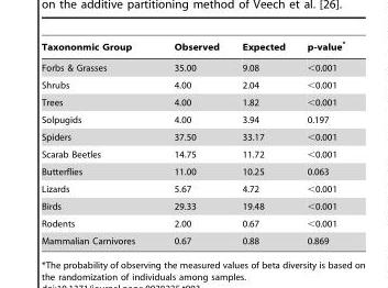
<table><thead><tr><td>Taxononmic Group</td><td>Observed</td><td>Expected</td><td>p-value*</td></tr></thead><tbody><tr><td>Forbs &amp; Grasses</td><td>35.00</td><td>9.08</td><td>&lt;0.001</td></tr><tr><td>Shrubs</td><td>4.00</td><td>2.04</td><td>&lt;0.001</td></tr><tr><td>Trees</td><td>4.00</td><td>1.82</td><td>&lt;0.001</td></tr><tr><td>Solpugids</td><td>4.00</td><td>3.94</td><td>0.197</td></tr><tr><td>Spiders</td><td>37.50</td><td>33.17</td><td>&lt;0.001</td></tr><tr><td>Scarab Beetles</td><td>14.75</td><td>11.72</td><td>&lt;0.001</td></tr><tr><td>Butterflies</td><td>11.00</td><td>10.25</td><td>0.063</td></tr><tr><td>Lizards</td><td>5.67</td><td>4.72</td><td>&lt;0.001</td></tr><tr><td>Birds</td><td>29.33</td><td>19.48</td><td>&lt;0.001</td></tr><tr><td>Rodents</td><td>2.00</td><td>0.67</td><td>&lt;0.001</td></tr><tr><td>Mammalian Carnivores</td><td>0.67</td><td>0.88</td><td>0.869</td></tr></tbody></table>